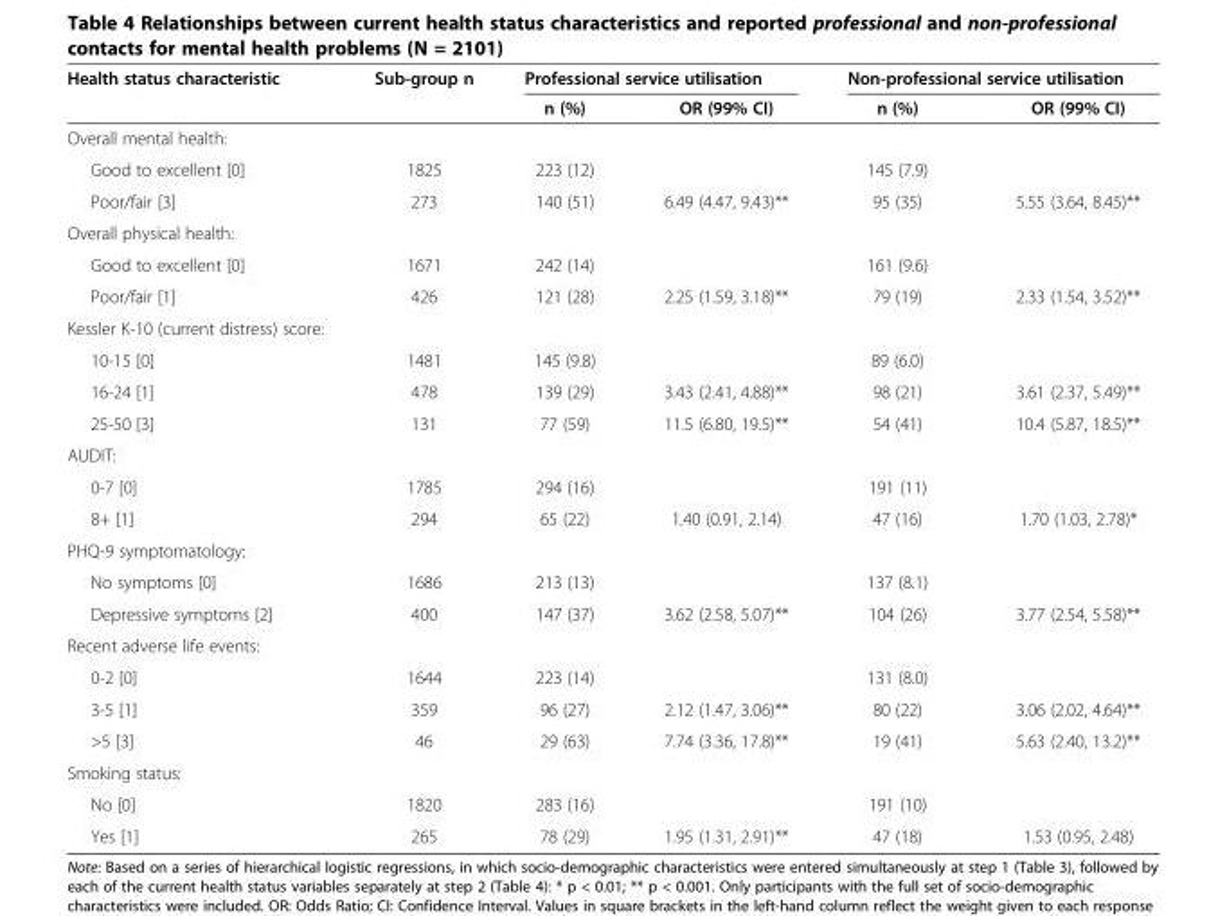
<table><thead><tr><td rowspan="2">Health status characteristic</td><td rowspan="2">Sub-group n</td><td colspan="2">Professional service utilisation</td><td colspan="2">Non-professional service utilisation</td></tr><tr><td>n (%)</td><td>OR (99% CI)</td><td>n (%)</td><td>OR (99% CI)</td></tr></thead><tbody><tr><td colspan="6">Overall mental health:</td></tr><tr><td>Good to excellent [0]</td><td>1825</td><td>223 (12)</td><td></td><td>145 (7.9)</td><td></td></tr><tr><td>Poor/fair [3]</td><td>273</td><td>140 (51)</td><td>6.49 (4.47, 9.43)**</td><td>95 (35)</td><td>5.55 (3.64, 8.45)**</td></tr><tr><td colspan="6">Overall physical health:</td></tr><tr><td>Good to excellent [0]</td><td>1671</td><td>242 (14)</td><td></td><td>161 (9.6)</td><td></td></tr><tr><td>Poor/fair [1]</td><td>426</td><td>121 (28)</td><td>2.25 (1.59, 3.18)**</td><td>79 (19)</td><td>2.33 (1.54, 3.52)**</td></tr><tr><td colspan="6">Kessler K-10 (current distress) score:</td></tr><tr><td>10-15 [0]</td><td>1481</td><td>145 (9.8)</td><td></td><td>89 (6.0)</td><td></td></tr><tr><td>16-24 [1]</td><td>478</td><td>139 (29)</td><td>3.43 (2.41, 4.88)**</td><td>98 (21)</td><td>3.61 (2.37, 5.49)**</td></tr><tr><td>25-50 [3]</td><td>131</td><td>77 (59)</td><td>11.5 (6.80, 19.5)**</td><td>54 (41)</td><td>10.4 (5.87, 18.5)**</td></tr><tr><td colspan="6">AUDIT:</td></tr><tr><td>0-7 [0]</td><td>1785</td><td>294 (16)</td><td></td><td>191 (11)</td><td></td></tr><tr><td>8+ [1]</td><td>294</td><td>65 (22)</td><td>1.40 (0.91, 2.14)</td><td>47 (16)</td><td>1.70 (1.03, 2.78)*</td></tr><tr><td colspan="6">PHQ-9 symptomatology:</td></tr><tr><td>No symptoms [0]</td><td>1686</td><td>213 (13)</td><td></td><td>137 (8.1)</td><td></td></tr><tr><td>Depressive symptoms [2]</td><td>400</td><td>147 (37)</td><td>3.62 (2.58, 5.07)**</td><td>104 (26)</td><td>3.77 (2.54, 5.58)**</td></tr><tr><td colspan="6">Recent adverse life events:</td></tr><tr><td>0-2 [0]</td><td>1644</td><td>223 (14)</td><td></td><td>131 (8.0)</td><td></td></tr><tr><td>3-5 [1]</td><td>359</td><td>96 (27)</td><td>2.12 (1.47, 3.06)**</td><td>80 (22)</td><td>3.06 (2.02, 4.64)**</td></tr><tr><td>&gt;5 [3]</td><td>46</td><td>29 (63)</td><td>7.74 (3.36, 17.8)**</td><td>19 (41)</td><td>5.63 (2.40, 13.2)**</td></tr><tr><td colspan="6">Smoking status:</td></tr><tr><td>No [0]</td><td>1820</td><td>283 (16)</td><td></td><td>191 (10)</td><td></td></tr><tr><td>Yes [1]</td><td>265</td><td>78 (29)</td><td>1.95 (1.31, 2.91)**</td><td>47 (18)</td><td>1.53 (0.95, 2.48)</td></tr></tbody></table>